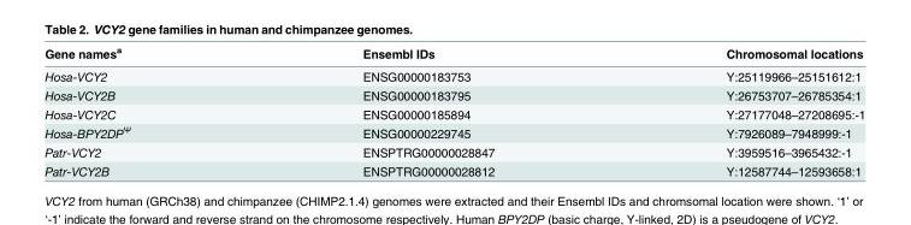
<table><thead><tr><td>Gene names<sup>a</sup></td><td>Ensembl IDs</td><td>Chromosomal locations</td></tr></thead><tbody><tr><td>Hosa-VCY2</td><td>ENSG00000183753</td><td>Y:25119966–25151612:1</td></tr><tr><td>Hosa-VCY2B</td><td>ENSG00000183795</td><td>Y:26753707–26785354:1</td></tr><tr><td>Hosa-VCY2C</td><td>ENSG00000185894</td><td>Y:27177048–27208695:-1</td></tr><tr><td>Hosa-BPY2DP<sup>Ψ</sup></td><td>ENSG00000229745</td><td>Y:7926089–7948999:-1</td></tr><tr><td>Patr-VCY2</td><td>ENSPTRG00000028847</td><td>Y:3959516–3965432:-1</td></tr><tr><td>Patr-VCY2B</td><td>ENSPTRG00000028812</td><td>Y:12587744–12593658:1</td></tr></tbody></table>